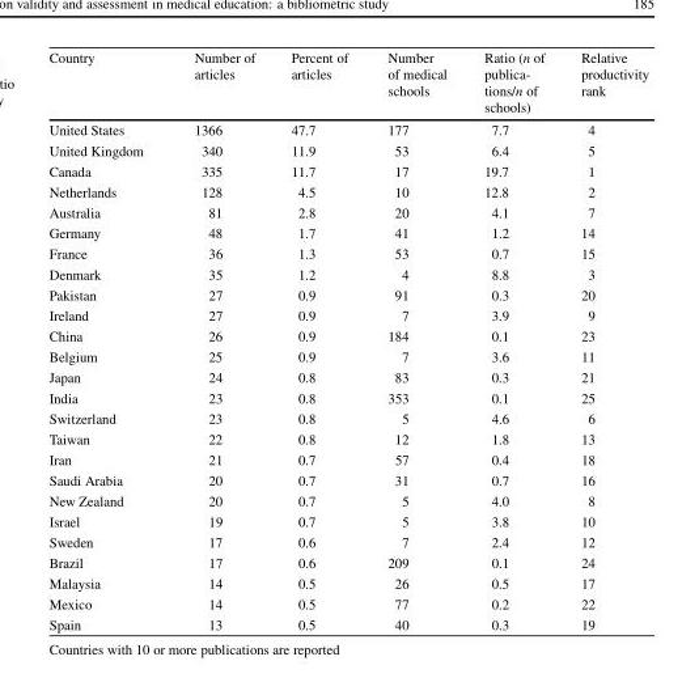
<table><thead><tr><td>Country</td><td>Number of articles</td><td>Percent of articles</td><td>Number of medical schools</td><td>Ratio (n of publica- tions/n of schools)</td><td>Relative productivity rank</td></tr></thead><tbody><tr><td>United States</td><td>1366</td><td>47.7</td><td>177</td><td>7.7</td><td>4</td></tr><tr><td>United Kingdom</td><td>340</td><td>11.9</td><td>53</td><td>6.4</td><td>5</td></tr><tr><td>Canada</td><td>335</td><td>11.7</td><td>17</td><td>19.7</td><td>1</td></tr><tr><td>Netherlands</td><td>128</td><td>4.5</td><td>10</td><td>12.8</td><td>2</td></tr><tr><td>Australia</td><td>81</td><td>2.8</td><td>20</td><td>4.1</td><td>7</td></tr><tr><td>Germany</td><td>48</td><td>1.7</td><td>41</td><td>1.2</td><td>14</td></tr><tr><td>France</td><td>36</td><td>1.3</td><td>53</td><td>0.7</td><td>15</td></tr><tr><td>Denmark</td><td>35</td><td>1.2</td><td>4</td><td>8.8</td><td>3</td></tr><tr><td>Pakistan</td><td>27</td><td>0.9</td><td>91</td><td>0.3</td><td>20</td></tr><tr><td>Ireland</td><td>27</td><td>0.9</td><td>7</td><td>3.9</td><td>9</td></tr><tr><td>China</td><td>26</td><td>0.9</td><td>184</td><td>0.1</td><td>23</td></tr><tr><td>Belgium</td><td>25</td><td>0.9</td><td>7</td><td>3.6</td><td>11</td></tr><tr><td>Japan</td><td>24</td><td>0.8</td><td>83</td><td>0.3</td><td>21</td></tr><tr><td>India</td><td>23</td><td>0.8</td><td>353</td><td>0.1</td><td>25</td></tr><tr><td>Switzerland</td><td>23</td><td>0.8</td><td>5</td><td>4.6</td><td>6</td></tr><tr><td>Taiwan</td><td>22</td><td>0.8</td><td>12</td><td>1.8</td><td>13</td></tr><tr><td>Iran</td><td>21</td><td>0.7</td><td>57</td><td>0.4</td><td>18</td></tr><tr><td>Saudi Arabia</td><td>20</td><td>0.7</td><td>31</td><td>0.7</td><td>16</td></tr><tr><td>New Zealand</td><td>20</td><td>0.7</td><td>5</td><td>4.0</td><td>8</td></tr><tr><td>Israel</td><td>19</td><td>0.7</td><td>5</td><td>3.8</td><td>10</td></tr><tr><td>Sweden</td><td>17</td><td>0.6</td><td>7</td><td>2.4</td><td>12</td></tr><tr><td>Brazil</td><td>17</td><td>0.6</td><td>209</td><td>0.1</td><td>24</td></tr><tr><td>Malaysia</td><td>14</td><td>0.5</td><td>26</td><td>0.5</td><td>17</td></tr><tr><td>Mexico</td><td>14</td><td>0.5</td><td>77</td><td>0.2</td><td>22</td></tr><tr><td>Spain</td><td>13</td><td>0.5</td><td>40</td><td>0.3</td><td>19</td></tr></tbody></table>